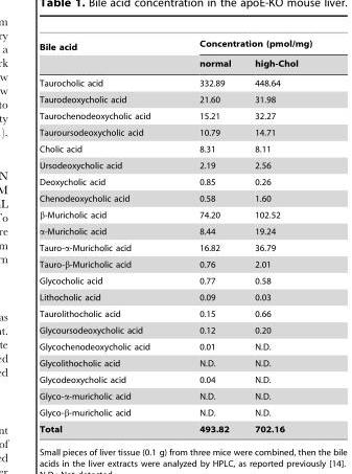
<table><thead><tr><td rowspan="2">Bile acid</td><td colspan="2">Concentration (pmol/mg)</td></tr><tr><td>normal</td><td>high-Chol</td></tr></thead><tbody><tr><td>Taurocholic acid</td><td>332.89</td><td>448.64</td></tr><tr><td>Taurodeoxycholic acid</td><td>21.60</td><td>31.98</td></tr><tr><td>Taurochenodeoxycholic acid</td><td>15.21</td><td>32.27</td></tr><tr><td>Tauroursodeoxycholic acid</td><td>10.79</td><td>14.71</td></tr><tr><td>Cholic acid</td><td>8.31</td><td>8.11</td></tr><tr><td>Ursodeoxycholic acid</td><td>2.19</td><td>2.56</td></tr><tr><td>Deoxycholic acid</td><td>0.85</td><td>0.26</td></tr><tr><td>Chenodeoxycholic acid</td><td>0.58</td><td>1.60</td></tr><tr><td>β-Muricholic acid</td><td>74.20</td><td>102.52</td></tr><tr><td>α-Muricholic acid</td><td>8.44</td><td>19.24</td></tr><tr><td>Tauro-α-Muricholic acid</td><td>16.82</td><td>36.79</td></tr><tr><td>Tauro-β-Muricholic acid</td><td>0.76</td><td>2.01</td></tr><tr><td>Glycocholic acid</td><td>0.77</td><td>0.58</td></tr><tr><td>Lithocholic acid</td><td>0.09</td><td>0.03</td></tr><tr><td>Taurolithocholic acid</td><td>0.15</td><td>0.66</td></tr><tr><td>Glycoursodeoxycholic acid</td><td>0.12</td><td>0.20</td></tr><tr><td>Glycochenodeoxycholic acid</td><td>0.01</td><td>N.D.</td></tr><tr><td>Glycolithocholic acid</td><td>N.D.</td><td>N.D.</td></tr><tr><td>Glycodeoxycholic acid</td><td>0.04</td><td>N.D.</td></tr><tr><td>Glyco-α-muricholic acid</td><td>N.D.</td><td>N.D.</td></tr><tr><td>Glyco-β-muricholic acid</td><td>N.D.</td><td>N.D.</td></tr><tr><td>Total</td><td>493.82</td><td>702.16</td></tr></tbody></table>